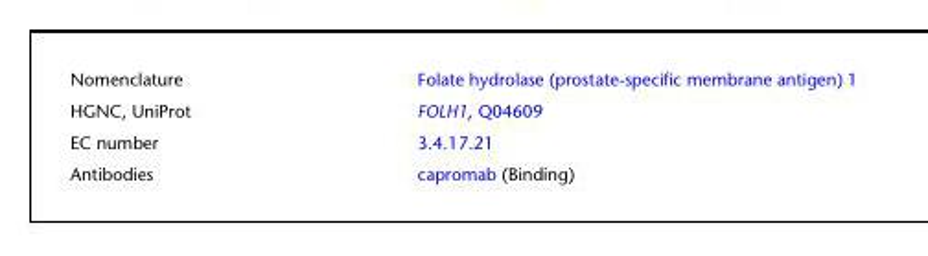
<table><tbody><tr><td>Nomenclature</td><td>Folate hydrolase (prostate-specific membrane antigen) 1</td></tr><tr><td>HGNC, UniProt</td><td>FOLH1, Q04609</td></tr><tr><td>EC number</td><td>3.4.17.21</td></tr><tr><td>Antibodies</td><td>capromab (Binding)</td></tr></tbody></table>